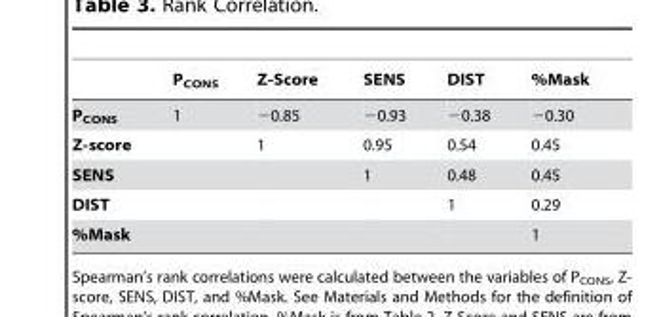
<table><thead><tr><td></td><td>P<sub>CONS</sub></td><td>Z-Score</td><td>SENS</td><td>DIST</td><td>%Mask</td></tr></thead><tbody><tr><td>P<sub>CONS</sub></td><td>1</td><td>−0.85</td><td>−0.93</td><td>−0.38</td><td>−0.30</td></tr><tr><td>Z-score</td><td></td><td>1</td><td>0.95</td><td>0.54</td><td>0.45</td></tr><tr><td>SENS</td><td></td><td></td><td>1</td><td>0.48</td><td>0.45</td></tr><tr><td>DIST</td><td></td><td></td><td></td><td>1</td><td>0.29</td></tr><tr><td>%Mask</td><td></td><td></td><td></td><td></td><td>1</td></tr></tbody></table>